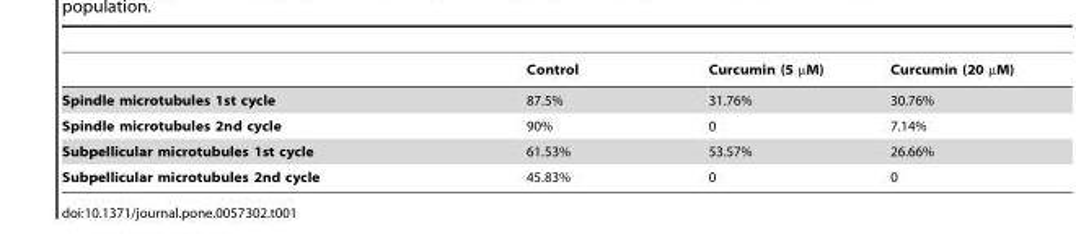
<table><thead><tr><td></td><td>Control</td><td>Curcumin (5 µM)</td><td>Curcumin (20 µM)</td></tr></thead><tbody><tr><td>Spindle microtubules 1st cycle</td><td>87.5%</td><td>31.76%</td><td>30.76%</td></tr><tr><td>Spindle microtubules 2nd cycle</td><td>90%</td><td>0</td><td>7.14%</td></tr><tr><td>Subpellicular microtubules 1st cycle</td><td>61.53%</td><td>53.57%</td><td>26.66%</td></tr><tr><td>Subpellicular microtubules 2nd cycle</td><td>45.83%</td><td>0</td><td>0</td></tr></tbody></table>